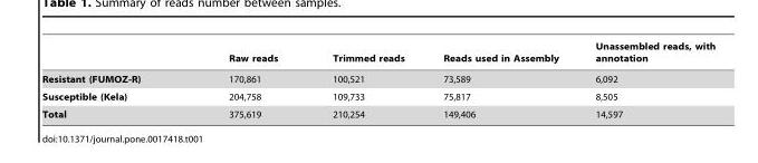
<table><thead><tr><td></td><td>Raw reads</td><td>Trimmed reads</td><td>Reads used in Assembly</td><td>Unassembled reads, with annotation</td></tr></thead><tbody><tr><td>Resistant (FUMOZ-R)</td><td>170,861</td><td>100,521</td><td>73,589</td><td>6,092</td></tr><tr><td>Susceptible (Kela)</td><td>204,758</td><td>109,733</td><td>75,817</td><td>8,505</td></tr><tr><td>Total</td><td>375,619</td><td>210,254</td><td>149,406</td><td>14,597</td></tr></tbody></table>